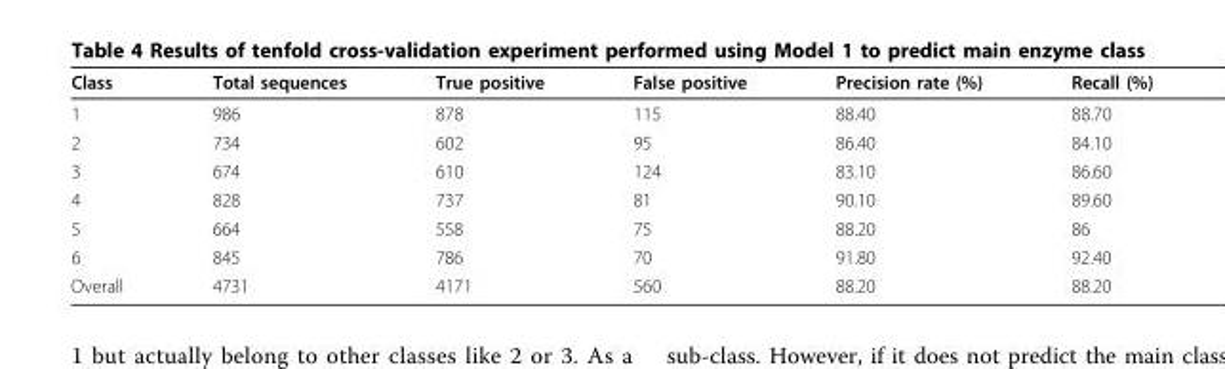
<table><thead><tr><td>Class</td><td>Total sequences</td><td>True positive</td><td>False positive</td><td>Precision rate (%)</td><td>Recall (%)</td></tr></thead><tbody><tr><td>1</td><td>986</td><td>878</td><td>115</td><td>88.40</td><td>88.70</td></tr><tr><td>2</td><td>734</td><td>602</td><td>95</td><td>86.40</td><td>84.10</td></tr><tr><td>3</td><td>674</td><td>610</td><td>124</td><td>83.10</td><td>86.60</td></tr><tr><td>4</td><td>828</td><td>737</td><td>81</td><td>90.10</td><td>89.60</td></tr><tr><td>5</td><td>664</td><td>558</td><td>75</td><td>88.20</td><td>86</td></tr><tr><td>6</td><td>845</td><td>786</td><td>70</td><td>91.80</td><td>92.40</td></tr><tr><td>Overall</td><td>4731</td><td>4171</td><td>560</td><td>88.20</td><td>88.20</td></tr></tbody></table>